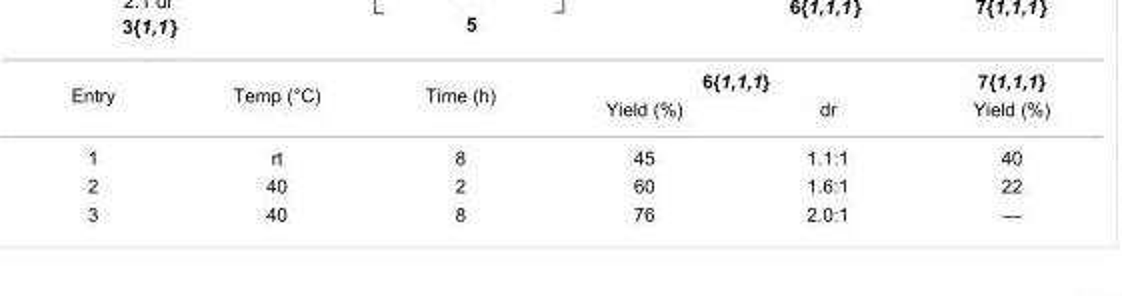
<table><tbody><tr><td rowspan="2">Entry</td><td rowspan="2">Temp (°C)</td><td rowspan="2">Time (h)</td><td colspan="2">6{1,1,1}</td><td>7{1,1,1}</td></tr><tr><td>Yield (%)</td><td>dr</td><td>Yield (%)</td></tr><tr><td>1</td><td>rt</td><td>8</td><td>45</td><td>1.1:1</td><td>40</td></tr><tr><td>2</td><td>40</td><td>2</td><td>60</td><td>1.6:1</td><td>22</td></tr><tr><td>3</td><td>40</td><td>8</td><td>76</td><td>2.0:1</td><td>—</td></tr></tbody></table>